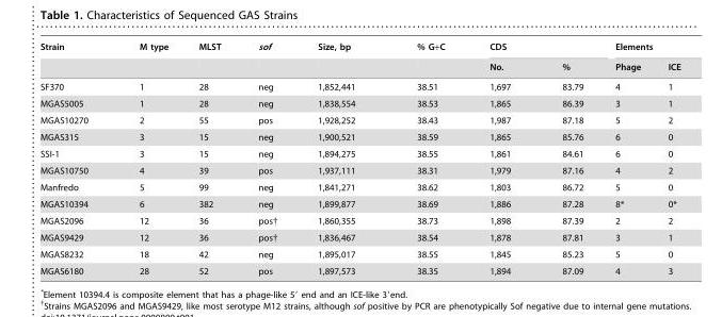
<table><thead><tr><td rowspan="2">Strain</td><td rowspan="2">M type</td><td rowspan="2">MLST</td><td rowspan="2">sof</td><td rowspan="2">Size, bp</td><td rowspan="2">% G+C</td><td colspan="2">CDS</td><td colspan="2">Elements</td></tr><tr><td>No.</td><td>%</td><td>Phage</td><td>ICE</td></tr></thead><tbody><tr><td>SF370</td><td>1</td><td>28</td><td>neg</td><td>1,852,441</td><td>38.51</td><td>1,697</td><td>83.79</td><td>4</td><td>1</td></tr><tr><td>MGAS5005</td><td>1</td><td>28</td><td>neg</td><td>1,838,554</td><td>38.53</td><td>1,865</td><td>86.39</td><td>3</td><td>1</td></tr><tr><td>MGAS10270</td><td>2</td><td>55</td><td>pos</td><td>1,928,252</td><td>38.43</td><td>1,987</td><td>87.18</td><td>5</td><td>2</td></tr><tr><td>MGAS315</td><td>3</td><td>15</td><td>neg</td><td>1,900,521</td><td>38.59</td><td>1,865</td><td>85.76</td><td>6</td><td>0</td></tr><tr><td>SSI-1</td><td>3</td><td>15</td><td>neg</td><td>1,894,275</td><td>38.55</td><td>1,861</td><td>84.61</td><td>6</td><td>0</td></tr><tr><td>MGAS10750</td><td>4</td><td>39</td><td>pos</td><td>1,937,111</td><td>38.31</td><td>1,979</td><td>87.16</td><td>4</td><td>2</td></tr><tr><td>Manfredo</td><td>5</td><td>99</td><td>neg</td><td>1,841,271</td><td>38.62</td><td>1,803</td><td>86.72</td><td>5</td><td>0</td></tr><tr><td>MGAS10394</td><td>6</td><td>382</td><td>neg</td><td>1,899,877</td><td>38.69</td><td>1,886</td><td>87.28</td><td>8*</td><td>0*</td></tr><tr><td>MGAS2096</td><td>12</td><td>36</td><td>pos†</td><td>1,860,355</td><td>38.73</td><td>1,898</td><td>87.39</td><td>2</td><td>2</td></tr><tr><td>MGAS9429</td><td>12</td><td>36</td><td>pos†</td><td>1,836,467</td><td>38.54</td><td>1,878</td><td>87.81</td><td>3</td><td>1</td></tr><tr><td>MGAS8232</td><td>18</td><td>42</td><td>neg</td><td>1,895,017</td><td>38.55</td><td>1,845</td><td>85.23</td><td>5</td><td>0</td></tr><tr><td>MGAS6180</td><td>28</td><td>52</td><td>pos</td><td>1,897,573</td><td>38.35</td><td>1,894</td><td>87.09</td><td>4</td><td>3</td></tr></tbody></table>